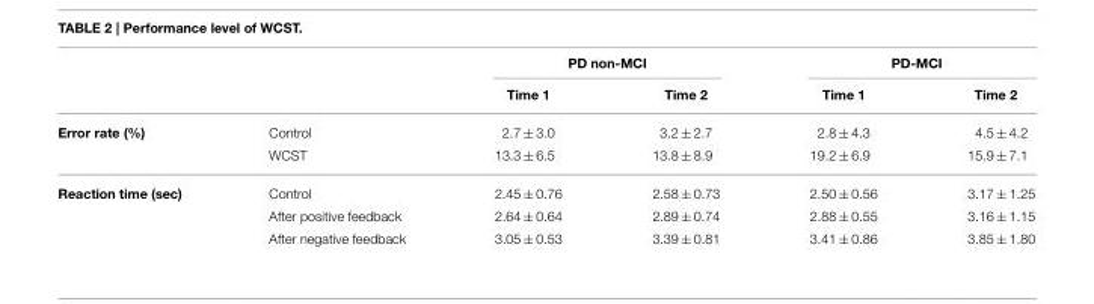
<table><thead><tr><td rowspan="2"></td><td rowspan="2"></td><td colspan="2">PD non-MCI</td><td colspan="2">PD-MCI</td></tr><tr><td>Time 1</td><td>Time 2</td><td>Time 1</td><td>Time 2</td></tr></thead><tbody><tr><td rowspan="2">Error rate (%)</td><td>Control</td><td>2.7 ± 3.0</td><td>3.2 ± 2.7</td><td>2.8 ± 4.3</td><td>4.5 ± 4.2</td></tr><tr><td>WCST</td><td>13.3 ± 6.5</td><td>13.8 ± 8.9</td><td>19.2 ± 6.9</td><td>15.9 ± 7.1</td></tr><tr><td rowspan="3">Reaction time (sec)</td><td>Control</td><td>2.45 ± 0.76</td><td>2.58 ± 0.73</td><td>2.50 ± 0.56</td><td>3.17 ± 1.25</td></tr><tr><td>After positive feedback</td><td>2.64 ± 0.64</td><td>2.89 ± 0.74</td><td>2.88 ± 0.55</td><td>3.16 ± 1.15</td></tr><tr><td>After negative feedback</td><td>3.05 ± 0.53</td><td>3.39 ± 0.81</td><td>3.41 ± 0.86</td><td>3.85 ± 1.80</td></tr></tbody></table>